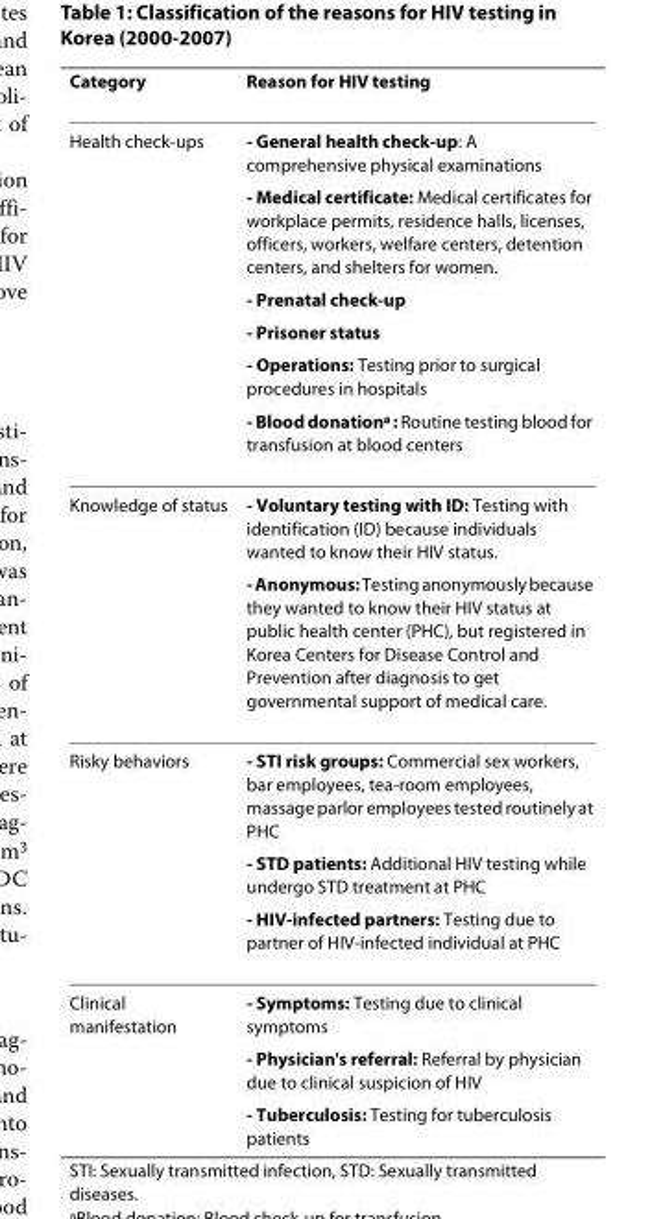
<table><thead><tr><td>Category</td><td>Reason for HIV testing</td></tr></thead><tbody><tr><td rowspan="6">Health check-ups</td><td>- General health check-up: A comprehensive physical examinations</td></tr><tr><td>- Medical certificate: Medical certificates for workplace permits, residence halls, licenses, officers, workers, welfare centers, detention centers, and shelters for women.</td></tr><tr><td>- Prenatal check-up</td></tr><tr><td>- Prisoner status</td></tr><tr><td>- Operations: Testing prior to surgical procedures in hospitals</td></tr><tr><td>- Blood donation<sup>a</sup> : Routine testing blood for transfusion at blood centers</td></tr><tr><td rowspan="2">Knowledge of status</td><td>- Voluntary testing with ID: Testing with identification (ID) because individuals wanted to know their HIV status.</td></tr><tr><td>- Anonymous: Testing anonymously because they wanted to know their HIV status at public health center (PHC), but registered in Korea Centers for Disease Control and Prevention after diagnosis to get governmental support of medical care.</td></tr><tr><td rowspan="3">Risky behaviors</td><td>- STI risk groups: Commercial sex workers, bar employees, tea-room employees, massage parlor employees tested routinely at PHC</td></tr><tr><td>- STD patients: Additional HIV testing while undergo STD treatment at PHC</td></tr><tr><td>- HIV-infected partners: Testing due to partner of HIV-infected individual at PHC</td></tr><tr><td rowspan="3">Clinical manifestation</td><td>- Symptoms: Testing due to clinical symptoms</td></tr><tr><td>- Physician&#x27;s referral: Referral by physician due to clinical suspicion of HIV</td></tr><tr><td>- Tuberculosis: Testing for tuberculosis patients</td></tr></tbody></table>